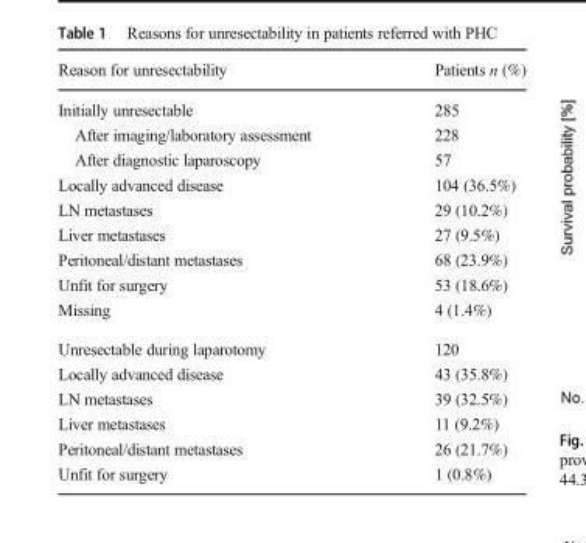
<table><thead><tr><td>Reason for unresectability</td><td>Patients n (%)</td></tr></thead><tbody><tr><td>Initially unresectable</td><td>285</td></tr><tr><td>After imaging/laboratory assessment</td><td>228</td></tr><tr><td>After diagnostic laparoscopy</td><td>57</td></tr><tr><td>Locally advanced disease</td><td>104 (36.5%)</td></tr><tr><td>LN metastases</td><td>29 (10.2%)</td></tr><tr><td>Liver metastases</td><td>27 (9.5%)</td></tr><tr><td>Peritoneal/distant metastases</td><td>68 (23.9%)</td></tr><tr><td>Unfit for surgery</td><td>53 (18.6%)</td></tr><tr><td>Missing</td><td>4 (1.4%)</td></tr><tr><td>Unresectable during laparotomy</td><td>120</td></tr><tr><td>Locally advanced disease</td><td>43 (35.8%)</td></tr><tr><td>LN metastases</td><td>39 (32.5%)</td></tr><tr><td>Liver metastases</td><td>11 (9.2%)</td></tr><tr><td>Peritoneal/distant metastases</td><td>26 (21.7%)</td></tr><tr><td>Unfit for surgery</td><td>1 (0.8%)</td></tr></tbody></table>